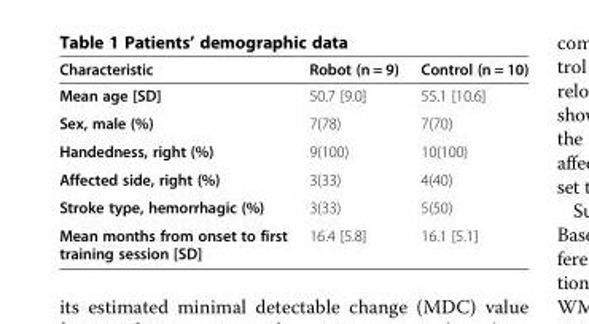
<table><thead><tr><td>Characteristic</td><td>Robot (n = 9)</td><td>Control (n = 10)</td></tr></thead><tbody><tr><td>Mean age [SD]</td><td>50.7 [9.0]</td><td>55.1 [10.6]</td></tr><tr><td>Sex, male (%)</td><td>7(78)</td><td>7(70)</td></tr><tr><td>Handedness, right (%)</td><td>9(100)</td><td>10(100)</td></tr><tr><td>Affected side, right (%)</td><td>3(33)</td><td>4(40)</td></tr><tr><td>Stroke type, hemorrhagic (%)</td><td>3(33)</td><td>5(50)</td></tr><tr><td>Mean months from onset to first training session [SD]</td><td>16.4 [5.8]</td><td>16.1 [5.1]</td></tr></tbody></table>